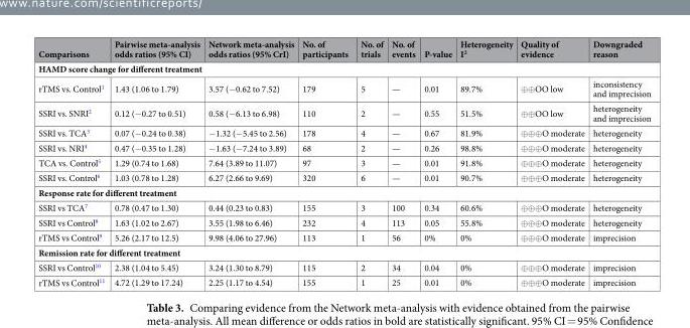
<table><thead><tr><td>Comparisons</td><td>Pairwise meta-analysis odds ratios (95% CI)</td><td>Network meta-analysis odds ratios (95% CrI)</td><td>No. of participants</td><td>No. of trials</td><td>No. of events</td><td>P-value</td><td>Heterogeneity I<sup>2</sup></td><td>Quality of evidence</td><td>Downgraded reason</td></tr></thead><tbody><tr><td colspan="10">HAMD score change for different treatment</td></tr><tr><td>rTMS vs. Control<sup>1</sup></td><td>1.43 (1.06 to 1.79)</td><td>3.57 (−0.62 to 7.52)</td><td>179</td><td>5</td><td>—</td><td>0.01</td><td>89.7%</td><td>⊕⊕OO low</td><td>inconsistency and imprecision</td></tr><tr><td>SSRI vs. SNRI<sup>2</sup></td><td>0.12 (−0.27 to 0.51)</td><td>0.58 (−6.13 to 6.98)</td><td>110</td><td>2</td><td>—</td><td>0.55</td><td>51.5%</td><td>⊕⊕OO low</td><td>heterogeneity and imprecision</td></tr><tr><td>SSRI vs. TCA<sup>3</sup></td><td>0.07 (−0.24 to 0.38)</td><td>−1.32 (−5.45 to 2.56)</td><td>178</td><td>4</td><td>—</td><td>0.67</td><td>81.9%</td><td>⊕⊕⊕O moderate</td><td>heterogeneity</td></tr><tr><td>SSRI vs. NRI<sup>4</sup></td><td>0.47 (−0.35 to 1.28)</td><td>−1.63 (−7.24 to 3.89)</td><td>68</td><td>2</td><td>—</td><td>0.26</td><td>98.8%</td><td>⊕⊕⊕O moderate</td><td>heterogeneity</td></tr><tr><td>TCA vs. Control<sup>5</sup></td><td>1.29 (0.74 to 1.68)</td><td>7.64 (3.89 to 11.07)</td><td>97</td><td>3</td><td>—</td><td>0.01</td><td>91.8%</td><td>⊕⊕⊕O moderate</td><td>heterogeneity</td></tr><tr><td>SSRI vs. Control<sup>6</sup></td><td>1.03 (0.78 to 1.28)</td><td>6.27 (2.66 to 9.69)</td><td>320</td><td>6</td><td>—</td><td>0.01</td><td>90.7%</td><td>⊕⊕⊕O moderate</td><td>heterogeneity</td></tr><tr><td colspan="10">Response rate for different treatment</td></tr><tr><td>SSRI vs TCA<sup>7</sup></td><td>0.78 (0.47 to 1.30)</td><td>0.44 (0.23 to 0.83)</td><td>155</td><td>3</td><td>100</td><td>0.34</td><td>60.6%</td><td>⊕⊕⊕O moderate</td><td>heterogeneity</td></tr><tr><td>SSRI vs Control<sup>8</sup></td><td>1.63 (1.02 to 2.67)</td><td>3.55 (1.98 to 6.46)</td><td>232</td><td>4</td><td>113</td><td>0.05</td><td>55.8%</td><td>⊕⊕⊕O moderate</td><td>heterogeneity</td></tr><tr><td>rTMS vs Control<sup>9</sup></td><td>5.26 (2.17 to 12.5)</td><td>9.98 (4.06 to 27.96)</td><td>113</td><td>1</td><td>56</td><td>0%</td><td>0%</td><td>⊕⊕⊕O moderate</td><td>imprecision</td></tr><tr><td colspan="10">Remission rate for different treatment</td></tr><tr><td>SSRI vs Control<sup>10</sup></td><td>2.38 (1.04 to 5.45)</td><td>3.24 (1.30 to 8.79)</td><td>115</td><td>2</td><td>34</td><td>0.04</td><td>0%</td><td>⊕⊕⊕O moderate</td><td>imprecision</td></tr><tr><td>rTMS vs Control<sup>11</sup></td><td>4.72 (1.29 to 17.24)</td><td>2.25 (1.17 to 4.54)</td><td>155</td><td>1</td><td>25</td><td>0.01</td><td>0%</td><td>⊕⊕⊕O moderate</td><td>imprecision</td></tr></tbody></table>